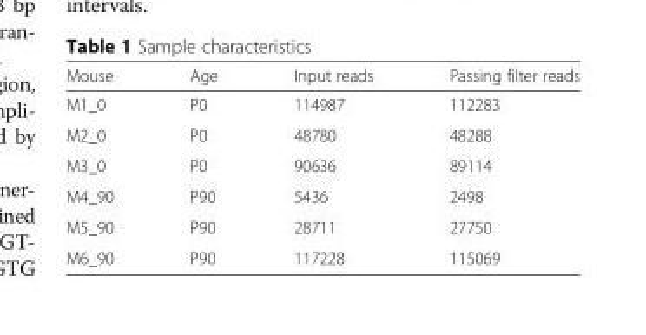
<table><thead><tr><td>Mouse</td><td>Age</td><td>Input reads</td><td>Passing filter reads</td></tr></thead><tbody><tr><td>M1_0</td><td>P0</td><td>114987</td><td>112283</td></tr><tr><td>M2_0</td><td>P0</td><td>48780</td><td>48288</td></tr><tr><td>M3_0</td><td>P0</td><td>90636</td><td>89114</td></tr><tr><td>M4_90</td><td>P90</td><td>5436</td><td>2498</td></tr><tr><td>M5_90</td><td>P90</td><td>28711</td><td>27750</td></tr><tr><td>M6_90</td><td>P90</td><td>117228</td><td>115069</td></tr></tbody></table>